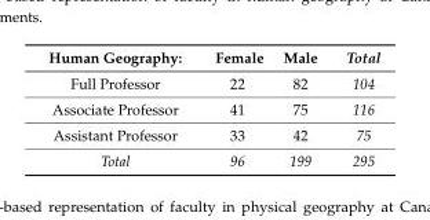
<table><thead><tr><td>Human Geography:</td><td>Female</td><td>Male</td><td>Total</td></tr></thead><tbody><tr><td>Full Professor</td><td>22</td><td>82</td><td>104</td></tr><tr><td>Associate Professor</td><td>41</td><td>75</td><td>116</td></tr><tr><td>Assistant Professor</td><td>33</td><td>42</td><td>75</td></tr><tr><td>Total</td><td>96</td><td>199</td><td>295</td></tr></tbody></table>